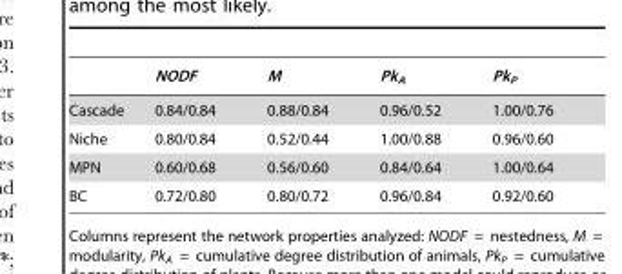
<table><thead><tr><td></td><td>NODF</td><td>M</td><td>Pk<sub>A</sub></td><td>Pk<sub>P</sub></td></tr></thead><tbody><tr><td>Cascade</td><td>0.84/0.84</td><td>0.88/0.84</td><td>0.96/0.52</td><td>1.00/0.76</td></tr><tr><td>Niche</td><td>0.80/0.84</td><td>0.52/0.44</td><td>1.00/0.88</td><td>0.96/0.60</td></tr><tr><td>MPN</td><td>0.60/0.68</td><td>0.56/0.60</td><td>0.84/0.64</td><td>1.00/0.64</td></tr><tr><td>BC</td><td>0.72/0.80</td><td>0.80/0.72</td><td>0.96/0.84</td><td>0.92/0.60</td></tr></tbody></table>